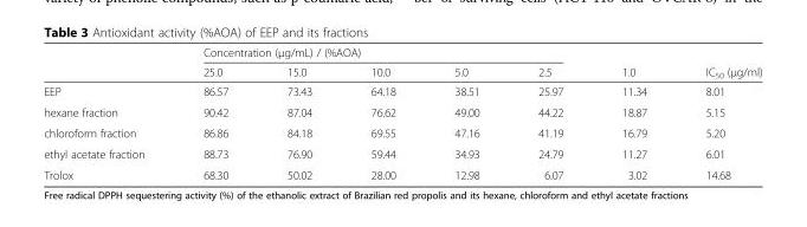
<table><thead><tr><td rowspan="2"></td><td colspan="5">Concentration (μg/mL) / (%AOA)</td><td rowspan="2">1.0</td><td rowspan="2">IC<sub>50</sub> (μg/ml)</td></tr><tr><td>25.0</td><td>15.0</td><td>10.0</td><td>5.0</td><td>2.5</td></tr></thead><tbody><tr><td>EEP</td><td>86.57</td><td>73.43</td><td>64.18</td><td>38.51</td><td>25.97</td><td>11.34</td><td>8.01</td></tr><tr><td>hexane fraction</td><td>90.42</td><td>87.04</td><td>76.62</td><td>49.00</td><td>44.22</td><td>18.87</td><td>5.15</td></tr><tr><td>chloroform fraction</td><td>86.86</td><td>84.18</td><td>69.55</td><td>47.16</td><td>41.19</td><td>16.79</td><td>5.20</td></tr><tr><td>ethyl acetate fraction</td><td>88.73</td><td>76.90</td><td>59.44</td><td>34.93</td><td>24.79</td><td>11.27</td><td>6.01</td></tr><tr><td>Trolox</td><td>68.30</td><td>50.02</td><td>28.00</td><td>12.98</td><td>6.07</td><td>3.02</td><td>14.68</td></tr></tbody></table>